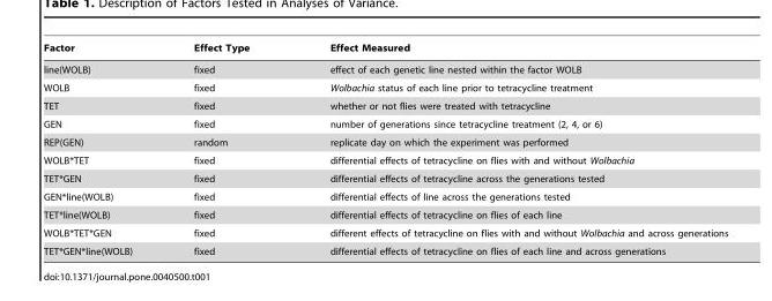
<table><thead><tr><td>Factor</td><td>Effect Type</td><td>Effect Measured</td></tr></thead><tbody><tr><td>line(WOLB)</td><td>fixed</td><td>effect of each genetic line nested within the factor WOLB</td></tr><tr><td>WOLB</td><td>fixed</td><td>Wolbachia status of each line prior to tetracycline treatment</td></tr><tr><td>TET</td><td>fixed</td><td>whether or not flies were treated with tetracycline</td></tr><tr><td>GEN</td><td>fixed</td><td>number of generations since tetracycline treatment (2, 4, or 6)</td></tr><tr><td>REP(GEN)</td><td>random</td><td>replicate day on which the experiment was performed</td></tr><tr><td>WOLB*TET</td><td>fixed</td><td>differential effects of tetracycline on flies with and without Wolbachia</td></tr><tr><td>TET*GEN</td><td>fixed</td><td>differential effects of tetracycline across the generations tested</td></tr><tr><td>GEN*line(WOLB)</td><td>fixed</td><td>differential effects of line across the generations tested</td></tr><tr><td>TET*line(WOLB)</td><td>fixed</td><td>differential effects of tetracycline on flies of each line</td></tr><tr><td>WOLB*TET*GEN</td><td>fixed</td><td>different effects of tetracycline on flies with and without Wolbachia and across generations</td></tr><tr><td>TET*GEN*line(WOLB)</td><td>fixed</td><td>differential effects of tetracycline on flies of each line and across generations</td></tr></tbody></table>